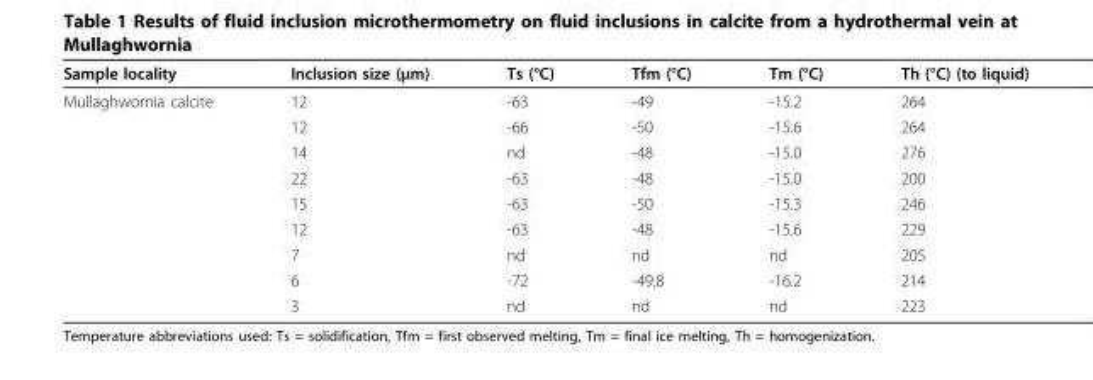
<table><thead><tr><td>Sample locality</td><td>Inclusion size (μm)</td><td>Ts (°C)</td><td>Tfm (°C)</td><td>Tm (°C)</td><td>Th (°C) (to liquid)</td></tr></thead><tbody><tr><td rowspan="9">Mullaghwornia calcite</td><td>12</td><td>-63</td><td>-49</td><td>-15.2</td><td>264</td></tr><tr><td>12</td><td>-66</td><td>-50</td><td>-15.6</td><td>264</td></tr><tr><td>14</td><td>nd</td><td>-48</td><td>-15.0</td><td>276</td></tr><tr><td>22</td><td>-63</td><td>-48</td><td>-15.0</td><td>200</td></tr><tr><td>15</td><td>-63</td><td>-50</td><td>-15.3</td><td>246</td></tr><tr><td>12</td><td>-63</td><td>-48</td><td>-15.6</td><td>229</td></tr><tr><td>7</td><td>nd</td><td>nd</td><td>nd</td><td>205</td></tr><tr><td>6</td><td>-72</td><td>-49.8</td><td>-16.2</td><td>214</td></tr><tr><td>3</td><td>nd</td><td>nd</td><td>nd</td><td>223</td></tr></tbody></table>